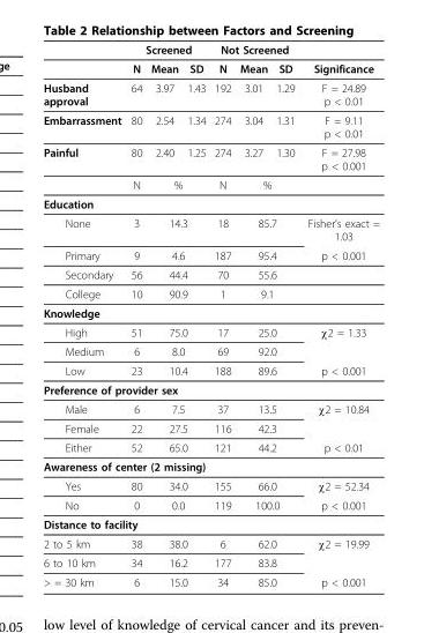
<table><thead><tr><td rowspan="2"></td><td colspan="3">Screened</td><td colspan="3">Not Screened</td><td rowspan="2">Significance</td></tr><tr><td>N</td><td>Mean</td><td>SD</td><td>N</td><td>Mean</td><td>SD</td></tr></thead><tbody><tr><td>Husband approval</td><td>64</td><td>3.97</td><td>1.43</td><td>192</td><td>3.01</td><td>1.29</td><td>F = 24.89 p &lt; 0.01</td></tr><tr><td>Embarrassment</td><td>80</td><td>2.54</td><td>1.34</td><td>274</td><td>3.04</td><td>1.31</td><td>F = 9.11 p &lt; 0.01</td></tr><tr><td rowspan="2">Painful</td><td>80</td><td>2.40</td><td>1.25</td><td>274</td><td>3.27</td><td>1.30</td><td>F = 27.98 p &lt; 0.001</td></tr><tr><td>N</td><td colspan="2">%</td><td>N</td><td colspan="2">%</td><td></td></tr><tr><td colspan="8">Education</td></tr><tr><td>None</td><td>3</td><td colspan="2">14.3</td><td>18</td><td colspan="2">85.7</td><td>Fisher’s exact = 1.03</td></tr><tr><td>Primary</td><td>9</td><td colspan="2">4.6</td><td>187</td><td colspan="2">95.4</td><td>p &lt; 0.001</td></tr><tr><td>Secondary</td><td>56</td><td colspan="2">44.4</td><td>70</td><td colspan="2">55.6</td><td></td></tr><tr><td>College</td><td>10</td><td colspan="2">90.9</td><td>1</td><td colspan="2">9.1</td><td></td></tr><tr><td colspan="8">Knowledge</td></tr><tr><td>High</td><td>51</td><td colspan="2">75.0</td><td>17</td><td colspan="2">25.0</td><td>χ2 = 1.33</td></tr><tr><td>Medium</td><td>6</td><td colspan="2">8.0</td><td>69</td><td colspan="2">92.0</td><td></td></tr><tr><td>Low</td><td>23</td><td colspan="2">10.4</td><td>188</td><td colspan="2">89.6</td><td>p &lt; 0.001</td></tr><tr><td colspan="8">Preference of provider sex</td></tr><tr><td>Male</td><td>6</td><td colspan="2">7.5</td><td>37</td><td colspan="2">13.5</td><td>χ2 = 10.84</td></tr><tr><td>Female</td><td>22</td><td colspan="2">27.5</td><td>116</td><td colspan="2">42.3</td><td></td></tr><tr><td>Either</td><td>52</td><td colspan="2">65.0</td><td>121</td><td colspan="2">44.2</td><td>p &lt; 0.01</td></tr><tr><td colspan="8">Awareness of center (2 missing)</td></tr><tr><td>Yes</td><td>80</td><td colspan="2">34.0</td><td>155</td><td colspan="2">66.0</td><td>χ2 = 52.34</td></tr><tr><td>No</td><td>0</td><td colspan="2">0.0</td><td>119</td><td colspan="2">100.0</td><td>p &lt; 0.001</td></tr><tr><td colspan="8">Distance to facility</td></tr><tr><td>2 to 5 km</td><td>38</td><td colspan="2">38.0</td><td>6</td><td colspan="2">62.0</td><td>χ2 = 19.99</td></tr><tr><td>6 to 10 km</td><td>34</td><td colspan="2">16.2</td><td>177</td><td colspan="2">83.8</td><td></td></tr><tr><td>&gt; = 30 km</td><td>6</td><td colspan="2">15.0</td><td>34</td><td colspan="2">85.0</td><td>p &lt; 0.001</td></tr></tbody></table>